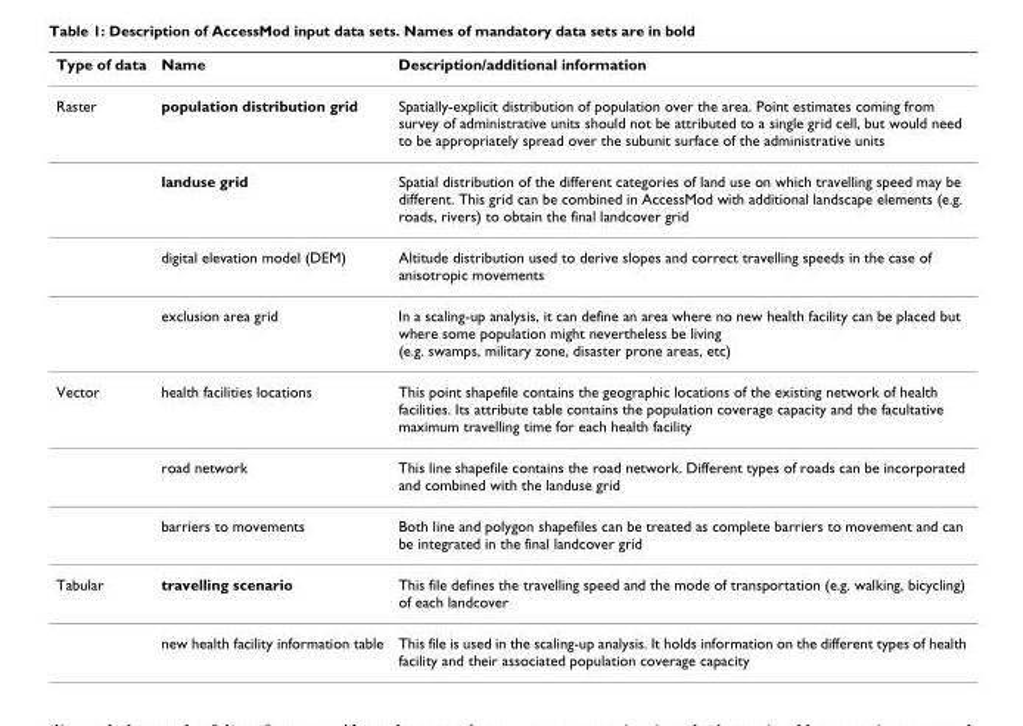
<table><thead><tr><td>Type of data</td><td>Name</td><td>Description/additional information</td></tr></thead><tbody><tr><td rowspan="4">Raster</td><td>population distribution grid</td><td>Spatially-explicit distribution of population over the area. Point estimates coming from survey of administrative units should not be attributed to a single grid cell, but would need to be appropriately spread over the subunit surface of the administrative units</td></tr><tr><td>landuse grid</td><td>Spatial distribution of the different categories of land use on which travelling speed may be different. This grid can be combined in AccessMod with additional landscape elements (e.g. roads, rivers) to obtain the final landcover grid</td></tr><tr><td>digital elevation model (DEM)</td><td>Altitude distribution used to derive slopes and correct travelling speeds in the case of anisotropic movements</td></tr><tr><td>exclusion area grid</td><td>In a scaling-up analysis, it can define an area where no new health facility can be placed but where some population might nevertheless be living (e.g. swamps, military zone, disaster prone areas, etc)</td></tr><tr><td rowspan="3">Vector</td><td>health facilities locations</td><td>This point shapefile contains the geographic locations of the existing network of health facilities. Its attribute table contains the population coverage capacity and the facultative maximum travelling time for each health facility</td></tr><tr><td>road network</td><td>This line shapefile contains the road network. Different types of roads can be incorporated and combined with the landuse grid</td></tr><tr><td>barriers to movements</td><td>Both line and polygon shapefiles can be treated as complete barriers to movement and can be integrated in the final landcover grid</td></tr><tr><td rowspan="2">Tabular</td><td>travelling scenario</td><td>This file defines the travelling speed and the mode of transportation (e.g. walking, bicycling) of each landcover</td></tr><tr><td>new health facility information table</td><td>This file is used in the scaling-up analysis. It holds information on the different types of health facility and their associated population coverage capacity</td></tr></tbody></table>